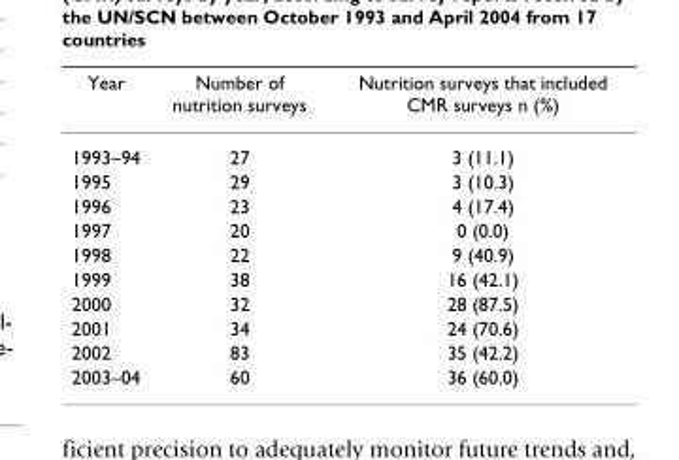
<table><thead><tr><td>Year</td><td>Number of nutrition surveys</td><td>Nutrition surveys that included CMR surveys n (%)</td></tr></thead><tbody><tr><td>1993–94</td><td>27</td><td>3 (11.1)</td></tr><tr><td>1995</td><td>29</td><td>3 (10.3)</td></tr><tr><td>1996</td><td>23</td><td>4 (17.4)</td></tr><tr><td>1997</td><td>20</td><td>0 (0.0)</td></tr><tr><td>1998</td><td>22</td><td>9 (40.9)</td></tr><tr><td>1999</td><td>38</td><td>16 (42.1)</td></tr><tr><td>2000</td><td>32</td><td>28 (87.5)</td></tr><tr><td>2001</td><td>34</td><td>24 (70.6)</td></tr><tr><td>2002</td><td>83</td><td>35 (42.2)</td></tr><tr><td>2003–04</td><td>60</td><td>36 (60.0)</td></tr></tbody></table>